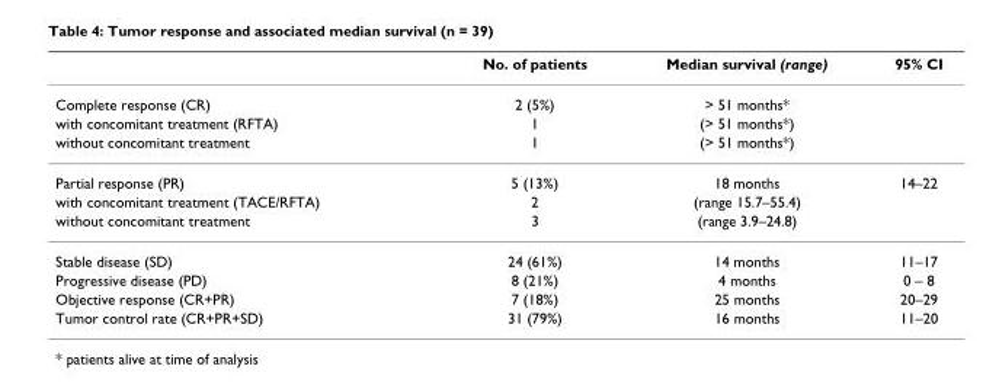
<table><thead><tr><td></td><td>No. of patients</td><td>Median survival (range)</td><td>95% CI</td></tr></thead><tbody><tr><td>Complete response (CR)</td><td>2 (5%)</td><td>&gt; 51 months*</td><td></td></tr><tr><td>with concomitant treatment (RFTA)</td><td>1</td><td>(&gt; 51 months*)</td><td></td></tr><tr><td>without concomitant treatment</td><td>1</td><td>(&gt; 51 months*)</td><td></td></tr><tr><td>Partial response (PR)</td><td>5 (13%)</td><td>18 months</td><td>14–22</td></tr><tr><td>with concomitant treatment (TACE/RFTA)</td><td>2</td><td>(range 15.7–55.4)</td><td></td></tr><tr><td>without concomitant treatment</td><td>3</td><td>(range 3.9–24.8)</td><td></td></tr><tr><td>Stable disease (SD)</td><td>24 (61%)</td><td>14 months</td><td>11–17</td></tr><tr><td>Progressive disease (PD)</td><td>8 (21%)</td><td>4 months</td><td>0 – 8</td></tr><tr><td>Objective response (CR+PR)</td><td>7 (18%)</td><td>25 months</td><td>20–29</td></tr><tr><td>Tumor control rate (CR+PR+SD)</td><td>31 (79%)</td><td>16 months</td><td>11–20</td></tr></tbody></table>